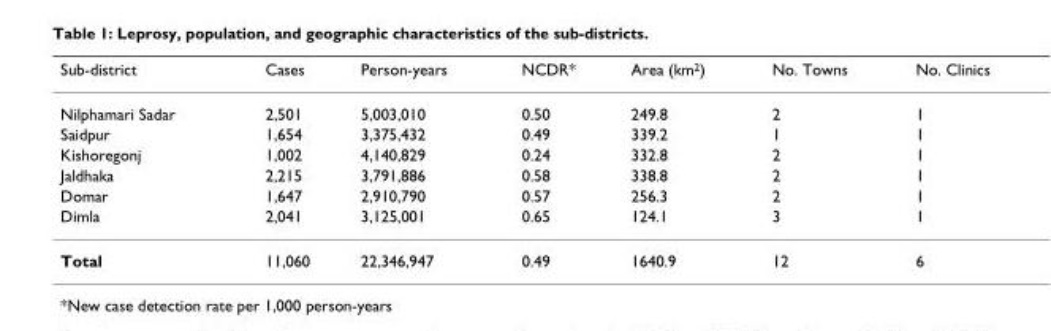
<table><thead><tr><td>Sub-district</td><td>Cases</td><td>Person-years</td><td>NCDR*</td><td>Area (km<sup>2</sup>)</td><td>No. Towns</td><td>No. Clinics</td></tr></thead><tbody><tr><td>Nilphamari Sadar</td><td>2,501</td><td>5,003,010</td><td>0.50</td><td>249.8</td><td>2</td><td>1</td></tr><tr><td>Saidpur</td><td>1,654</td><td>3,375,432</td><td>0.49</td><td>339.2</td><td>1</td><td>1</td></tr><tr><td>Kishoregonj</td><td>1,002</td><td>4,140,829</td><td>0.24</td><td>332.8</td><td>2</td><td>1</td></tr><tr><td>Jaldhaka</td><td>2,215</td><td>3,791,886</td><td>0.58</td><td>338.8</td><td>2</td><td>1</td></tr><tr><td>Domar</td><td>1,647</td><td>2,910,790</td><td>0.57</td><td>256.3</td><td>2</td><td>1</td></tr><tr><td>Dimla</td><td>2,041</td><td>3,125,001</td><td>0.65</td><td>124.1</td><td>3</td><td>1</td></tr><tr><td>Total</td><td>11,060</td><td>22,346,947</td><td>0.49</td><td>1640.9</td><td>12</td><td>6</td></tr></tbody></table>